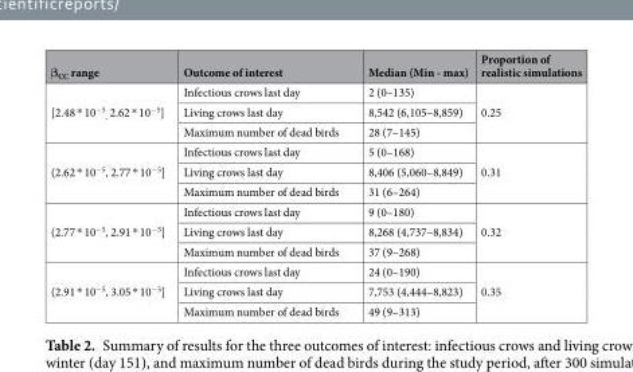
<table><thead><tr><td>β<sub>CC</sub> range</td><td>Outcome of interest</td><td>Median (Min - max)</td><td>Proportion of realistic simulations</td></tr></thead><tbody><tr><td rowspan="3">[2.48 * 10<sup>−5</sup> <sub>,</sub> 2.62 * 10<sup>−5</sup>]</td><td>Infectious crows last day</td><td>2 (0–135)</td><td rowspan="3">0.25</td></tr><tr><td>Living crows last day</td><td>8,542 (6,105–8,859)</td></tr><tr><td>Maximum number of dead birds</td><td>28 (7–145)</td></tr><tr><td rowspan="3">(2.62 * 10<sup>−5</sup>, 2.77 * 10<sup>−5</sup>]</td><td>Infectious crows last day</td><td>5 (0–168)</td><td rowspan="3">0.31</td></tr><tr><td>Living crows last day</td><td>8,406 (5,060–8,849)</td></tr><tr><td>Maximum number of dead birds</td><td>31 (6–264)</td></tr><tr><td rowspan="3">(2.77 * 10<sup>−5</sup>, 2.91 * 10<sup>−5</sup>]</td><td>Infectious crows last day</td><td>9 (0–180)</td><td rowspan="3">0.32</td></tr><tr><td>Living crows last day</td><td>8,268 (4,737–8,834)</td></tr><tr><td>Maximum number of dead birds</td><td>37 (9–268)</td></tr><tr><td rowspan="3">(2.91 * 10<sup>−5</sup>, 3.05 * 10<sup>−5</sup>]</td><td>Infectious crows last day</td><td>24 (0–190)</td><td rowspan="3">0.35</td></tr><tr><td>Living crows last day</td><td>7,753 (4,444–8,823)</td></tr><tr><td>Maximum number of dead birds</td><td>49 (9–313)</td></tr></tbody></table>